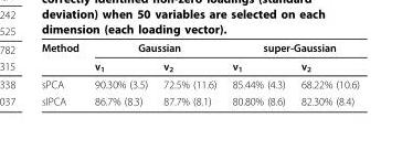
<table><thead><tr><td rowspan="2">Method</td><td colspan="2">Gaussian</td><td colspan="2">super-Gaussian</td></tr><tr><td>v<sub>1</sub></td><td>v<sub>2</sub></td><td>v<sub>1</sub></td><td>v<sub>2</sub></td></tr></thead><tbody><tr><td>sPCA</td><td>90.30% (3.5)</td><td>72.5% (11.6)</td><td>85.44% (4.3)</td><td>68.22% (10.6)</td></tr><tr><td>sIPCA</td><td>86.7% (8.3)</td><td>87.7% (8.1)</td><td>80.80% (8.6)</td><td>82.30% (8.4)</td></tr></tbody></table>